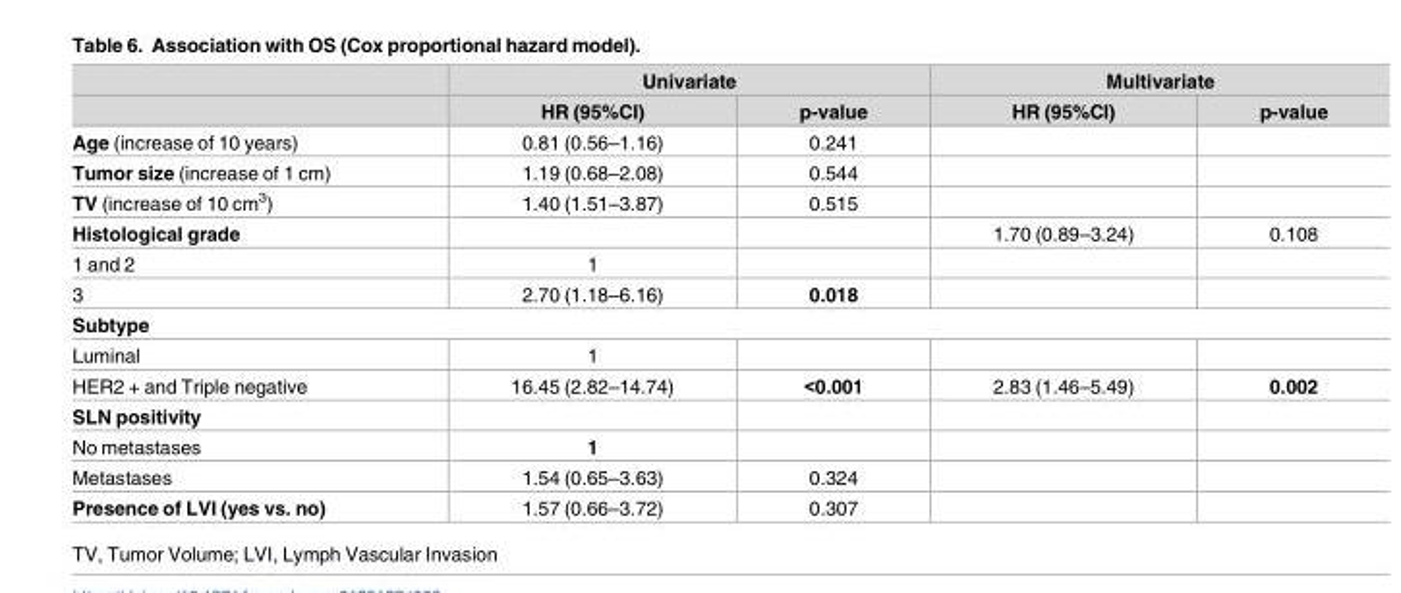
<table><thead><tr><td rowspan="2"></td><td colspan="2">Univariate</td><td colspan="2">Multivariate</td></tr><tr><td>HR (95%CI)</td><td>p-value</td><td>HR (95%CI)</td><td>p-value</td></tr></thead><tbody><tr><td>Age (increase of 10 years)</td><td>0.81 (0.56–1.16)</td><td>0.241</td><td></td><td></td></tr><tr><td>Tumor size (increase of 1 cm)</td><td>1.19 (0.68–2.08)</td><td>0.544</td><td></td><td></td></tr><tr><td>TV (increase of 10 cm<sup>3</sup>)</td><td>1.40 (1.51–3.87)</td><td>0.515</td><td></td><td></td></tr><tr><td>Histological grade</td><td></td><td></td><td>1.70 (0.89–3.24)</td><td>0.108</td></tr><tr><td>1 and 2</td><td>1</td><td></td><td></td><td></td></tr><tr><td>3</td><td>2.70 (1.18–6.16)</td><td>0.018</td><td></td><td></td></tr><tr><td colspan="5">Subtype</td></tr><tr><td>Luminal</td><td>1</td><td></td><td></td><td></td></tr><tr><td>HER2 + and Triple negative</td><td>16.45 (2.82–14.74)</td><td>&lt;0.001</td><td>2.83 (1.46–5.49)</td><td>0.002</td></tr><tr><td colspan="5">SLN positivity</td></tr><tr><td>No metastases</td><td>1</td><td></td><td></td><td></td></tr><tr><td>Metastases</td><td>1.54 (0.65–3.63)</td><td>0.324</td><td></td><td></td></tr><tr><td>Presence of LVI (yes vs. no)</td><td>1.57 (0.66–3.72)</td><td>0.307</td><td></td><td></td></tr></tbody></table>